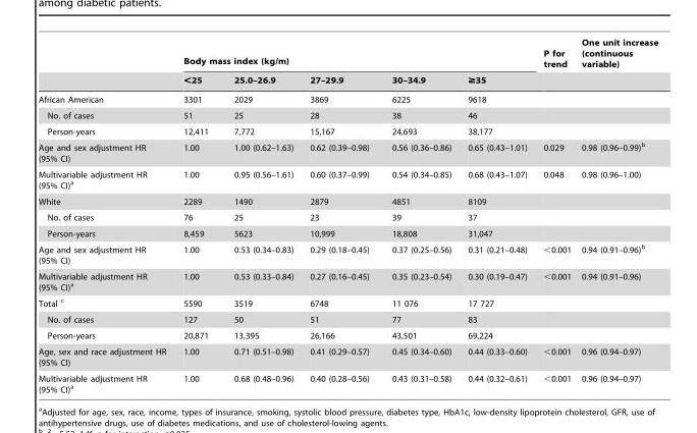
<table><thead><tr><td rowspan="2"></td><td colspan="5">Body mass index (kg/m)</td><td rowspan="2">P for trend</td><td rowspan="2">One unit increase (continuous variable)</td></tr><tr><td>&lt;25</td><td>25.0–26.9</td><td>27–29.9</td><td>30–34.9</td><td>≥35</td></tr></thead><tbody><tr><td>African American</td><td>3301</td><td>2029</td><td>3869</td><td>6225</td><td>9618</td><td></td><td></td></tr><tr><td>No. of cases</td><td>51</td><td>25</td><td>28</td><td>38</td><td>46</td><td></td><td></td></tr><tr><td>Person-years</td><td>12,411</td><td>7,772</td><td>15,167</td><td>24,693</td><td>38,177</td><td></td><td></td></tr><tr><td>Age and sex adjustment HR (95% CI)</td><td>1.00</td><td>1.00 (0.62–1.63)</td><td>0.62 (0.39–0.98)</td><td>0.56 (0.36–0.86)</td><td>0.65 (0.43–1.01)</td><td>0.029</td><td>0.98 (0.96–0.99)<sup>b</sup></td></tr><tr><td>Multivariable adjustment HR (95% CI)<sup>a</sup></td><td>1.00</td><td>0.95 (0.56–1.61)</td><td>0.60 (0.37–0.99)</td><td>0.54 (0.34–0.85)</td><td>0.68 (0.43–1.07)</td><td>0.048</td><td>0.98 (0.96–1.00)</td></tr><tr><td>White</td><td>2289</td><td>1490</td><td>2879</td><td>4851</td><td>8109</td><td></td><td></td></tr><tr><td>No. of cases</td><td>76</td><td>25</td><td>23</td><td>39</td><td>37</td><td></td><td></td></tr><tr><td>Person-years</td><td>8,459</td><td>5623</td><td>10,999</td><td>18,808</td><td>31,047</td><td></td><td></td></tr><tr><td>Age and sex adjustment HR (95% CI)</td><td>1.00</td><td>0.53 (0.34–0.83)</td><td>0.29 (0.18–0.45)</td><td>0.37 (0.25–0.56)</td><td>0.31 (0.21–0.48)</td><td>&lt;0.001</td><td>0.94 (0.91–0.96)<sup>b</sup></td></tr><tr><td>Multivariable adjustment HR (95% CI)<sup>a</sup></td><td>1.00</td><td>0.53 (0.33–0.84)</td><td>0.27 (0.16–0.45)</td><td>0.35 (0.23–0.54)</td><td>0.30 (0.19–0.47)</td><td>&lt;0.001</td><td>0.94 (0.91–0.96)</td></tr><tr><td>Total c</td><td>5590</td><td>3519</td><td>6748</td><td>11 076</td><td>17 727</td><td></td><td></td></tr><tr><td>No. of cases</td><td>127</td><td>50</td><td>51</td><td>77</td><td>83</td><td></td><td></td></tr><tr><td>Person-years</td><td>20,871</td><td>13,395</td><td>26,166</td><td>43,501</td><td>69,224</td><td></td><td></td></tr><tr><td>Age, sex and race adjustment HR (95% CI)</td><td>1.00</td><td>0.71 (0.51–0.98)</td><td>0.41 (0.29–0.57)</td><td>0.45 (0.34–0.60)</td><td>0.44 (0.33–0.60)</td><td>&lt;0.001</td><td>0.96 (0.94–0.97)</td></tr><tr><td>Multivariable adjustment HR (95% CI)<sup>a</sup></td><td>1.00</td><td>0.68 (0.48–0.96)</td><td>0.40 (0.28–0.56)</td><td>0.43 (0.31–0.58)</td><td>0.44 (0.32–0.61)</td><td>&lt;0.001</td><td>0.96 (0.94–0.97)</td></tr></tbody></table>